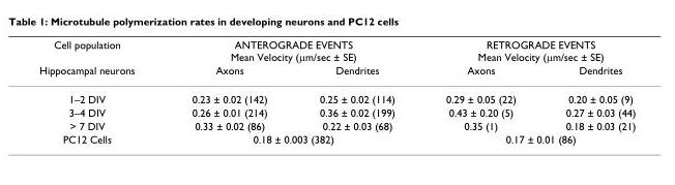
<table><thead><tr><td rowspan="2">Cell population Hippocampal neurons</td><td colspan="2">ANTEROGRADE EVENTS Mean Velocity (μm/sec ± SE)</td><td colspan="2">RETROGRADE EVENTS Mean Velocity (μm/sec ± SE)</td></tr><tr><td>Axons</td><td>Dendrites</td><td>Axons</td><td>Dendrites</td></tr></thead><tbody><tr><td>1–2 DIV</td><td>0.23 ± 0.02 (142)</td><td>0.25 ± 0.02 (114)</td><td>0.29 ± 0.05 (22)</td><td>0.20 ± 0.05 (9)</td></tr><tr><td>3–4 DIV</td><td>0.26 ± 0.01 (214)</td><td>0.36 ± 0.02 (199)</td><td>0.43 ± 0.20 (5)</td><td>0.27 ± 0.03 (44)</td></tr><tr><td>&gt; 7 DIV</td><td>0.33 ± 0.02 (86)</td><td>0.22 ± 0.03 (68)</td><td>0.35 (1)</td><td>0.18 ± 0.03 (21)</td></tr><tr><td>PC12 Cells</td><td colspan="2">0.18 ± 0.003 (382)</td><td colspan="2">0.17 ± 0.01 (86)</td></tr></tbody></table>